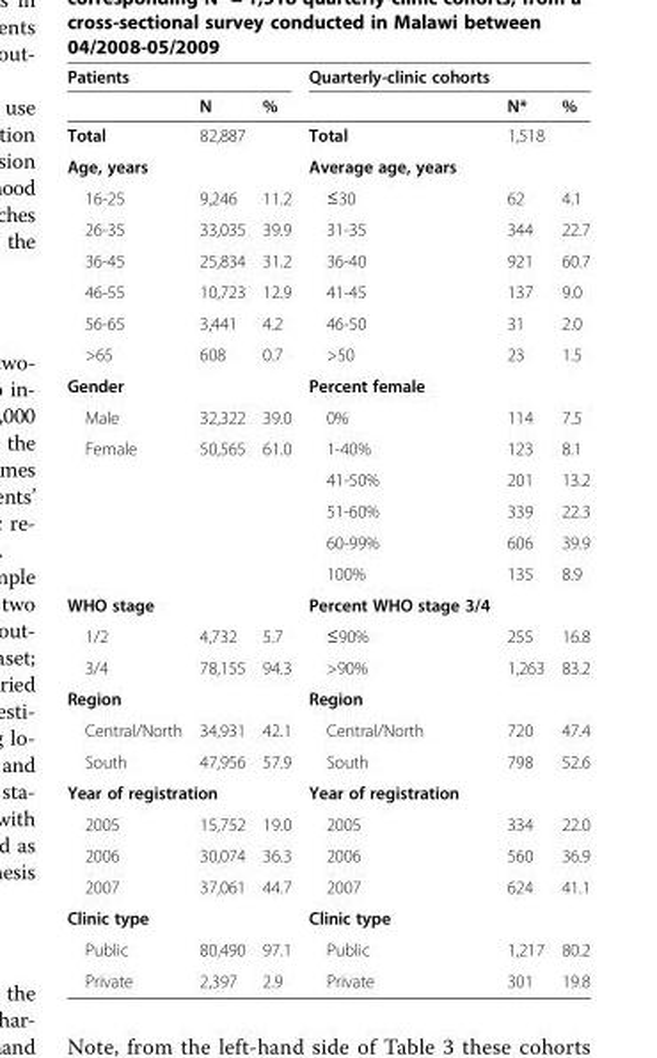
<table><thead><tr><td colspan="3">Patients</td><td colspan="3">Quarterly-clinic cohorts</td></tr><tr><td></td><td>N</td><td>%</td><td></td><td>N*</td><td>%</td></tr></thead><tbody><tr><td>Total</td><td>82,887</td><td></td><td>Total</td><td>1,518</td><td></td></tr><tr><td>Age, years</td><td></td><td></td><td>Average age, years</td><td></td><td></td></tr><tr><td>16-25</td><td>9,246</td><td>11.2</td><td>≤30</td><td>62</td><td>4.1</td></tr><tr><td>26-35</td><td>33,035</td><td>39.9</td><td>31-35</td><td>344</td><td>22.7</td></tr><tr><td>36-45</td><td>25,834</td><td>31.2</td><td>36-40</td><td>921</td><td>60.7</td></tr><tr><td>46-55</td><td>10,723</td><td>12.9</td><td>41-45</td><td>137</td><td>9.0</td></tr><tr><td>56-65</td><td>3,441</td><td>4.2</td><td>46-50</td><td>31</td><td>2.0</td></tr><tr><td>&gt;65</td><td>608</td><td>0.7</td><td>&gt;50</td><td>23</td><td>1.5</td></tr><tr><td>Gender</td><td></td><td></td><td>Percent female</td><td></td><td></td></tr><tr><td>Male</td><td>32,322</td><td>39.0</td><td>0%</td><td>114</td><td>7.5</td></tr><tr><td rowspan="5">Female</td><td>50,565</td><td>61.0</td><td>1-40%</td><td>123</td><td>8.1</td></tr><tr><td></td><td></td><td>41-50%</td><td>201</td><td>13.2</td></tr><tr><td></td><td></td><td>51-60%</td><td>339</td><td>22.3</td></tr><tr><td></td><td></td><td>60-99%</td><td>606</td><td>39.9</td></tr><tr><td></td><td></td><td>100%</td><td>135</td><td>8.9</td></tr><tr><td>WHO stage</td><td></td><td></td><td>Percent WHO stage 3/4</td><td></td><td></td></tr><tr><td>1/2</td><td>4,732</td><td>5.7</td><td>≤90%</td><td>255</td><td>16.8</td></tr><tr><td>3/4</td><td>78,155</td><td>94.3</td><td>&gt;90%</td><td>1,263</td><td>83.2</td></tr><tr><td>Region</td><td></td><td></td><td>Region</td><td></td><td></td></tr><tr><td>Central/North</td><td>34,931</td><td>42.1</td><td>Central/North</td><td>720</td><td>47.4</td></tr><tr><td>South</td><td>47,956</td><td>57.9</td><td>South</td><td>798</td><td>52.6</td></tr><tr><td colspan="2">Year of registration</td><td></td><td>Year of registration</td><td></td><td></td></tr><tr><td>2005</td><td>15,752</td><td>19.0</td><td>2005</td><td>334</td><td>22.0</td></tr><tr><td>2006</td><td>30,074</td><td>36.3</td><td>2006</td><td>560</td><td>36.9</td></tr><tr><td>2007</td><td>37,061</td><td>44.7</td><td>2007</td><td>624</td><td>41.1</td></tr><tr><td>Clinic type</td><td></td><td></td><td>Clinic type</td><td></td><td></td></tr><tr><td>Public</td><td>80,490</td><td>97.1</td><td>Public</td><td>1,217</td><td>80.2</td></tr><tr><td>Private</td><td>2,397</td><td>2.9</td><td>Private</td><td>301</td><td>19.8</td></tr></tbody></table>